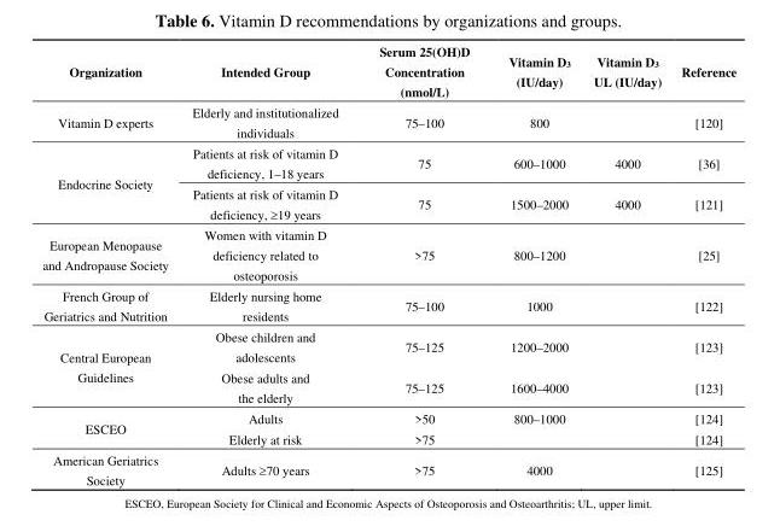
<table><thead><tr><td>Organization</td><td>Intended Group</td><td>Serum 25(OH)D Concentration (nmol/L)</td><td>Vitamin D<sub>3</sub> (IU/day)</td><td>Vitamin D<sub>3</sub> UL (IU/day)</td><td>Reference</td></tr></thead><tbody><tr><td>Vitamin D experts</td><td>Elderly and institutionalized individuals</td><td>75–100</td><td>800</td><td></td><td>[120]</td></tr><tr><td rowspan="2">Endocrine Society</td><td>Patients at risk of vitamin D deficiency, 1–18 years</td><td>75</td><td>600–1000</td><td>4000</td><td>[36]</td></tr><tr><td>Patients at risk of vitamin D deficiency, ≥19 years</td><td>75</td><td>1500–2000</td><td>4000</td><td>[121]</td></tr><tr><td>European Menopause and Andropause Society</td><td>Women with vitamin D deficiency related to osteoporosis</td><td>&gt;75</td><td>800–1200</td><td></td><td>[25]</td></tr><tr><td>French Group of Geriatrics and Nutrition</td><td>Elderly nursing home residents</td><td>75–100</td><td>1000</td><td></td><td>[122]</td></tr><tr><td rowspan="2">Central European Guidelines</td><td>Obese children and adolescents</td><td>75–125</td><td>1200–2000</td><td></td><td>[123]</td></tr><tr><td>Obese adults and the elderly</td><td>75–125</td><td>1600–4000</td><td></td><td>[123]</td></tr><tr><td rowspan="2">ESCEO</td><td>Adults</td><td>&gt;50</td><td>800–1000</td><td rowspan="2"></td><td>[124]</td></tr><tr><td>Elderly at risk</td><td>&gt;75</td><td></td><td>[124]</td></tr><tr><td>American Geriatrics Society</td><td>Adults ≥70 years</td><td>&gt;75</td><td>4000</td><td></td><td>[125]</td></tr></tbody></table>